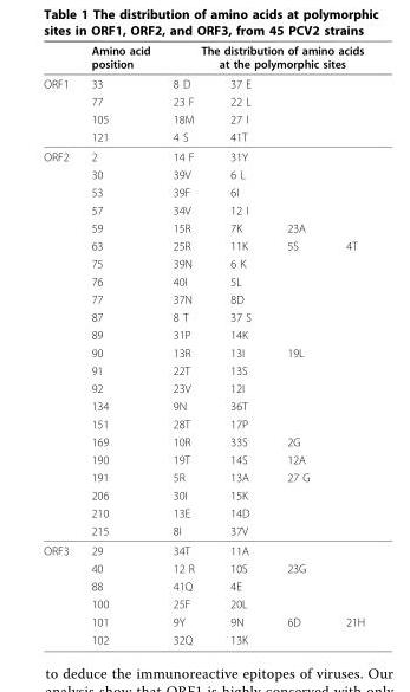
<table><thead><tr><td rowspan="2">ORF1</td><td rowspan="2">Amino acid position 33</td><td colspan="4">The distribution of amino acids at the polymorphic sites</td></tr><tr><td>8 D</td><td>37 E</td><td></td><td></td></tr></thead><tbody><tr><td></td><td>77</td><td>23 F</td><td>22 L</td><td></td><td></td></tr><tr><td></td><td>105</td><td>18M</td><td>27 I</td><td></td><td></td></tr><tr><td></td><td>121</td><td>4 S</td><td>41T</td><td></td><td></td></tr><tr><td rowspan="22">ORF2</td><td>2</td><td>14 F</td><td>31Y</td><td></td><td></td></tr><tr><td>30</td><td>39V</td><td>6 L</td><td></td><td></td></tr><tr><td>53</td><td>39F</td><td>6I</td><td></td><td></td></tr><tr><td>57</td><td>34V</td><td>12 I</td><td></td><td></td></tr><tr><td>59</td><td>15R</td><td>7K</td><td>23A</td><td></td></tr><tr><td>63</td><td>25R</td><td>11K</td><td>5S</td><td>4T</td></tr><tr><td>75</td><td>39N</td><td>6 K</td><td></td><td></td></tr><tr><td>76</td><td>40I</td><td>5L</td><td></td><td></td></tr><tr><td>77</td><td>37N</td><td>8D</td><td></td><td></td></tr><tr><td>87</td><td>8 T</td><td>37 S</td><td></td><td></td></tr><tr><td>89</td><td>31P</td><td>14K</td><td></td><td></td></tr><tr><td>90</td><td>13R</td><td>13I</td><td>19L</td><td></td></tr><tr><td>91</td><td>22T</td><td>13S</td><td></td><td></td></tr><tr><td>92</td><td>23V</td><td>12I</td><td></td><td></td></tr><tr><td>134</td><td>9N</td><td>36T</td><td></td><td></td></tr><tr><td>151</td><td>28T</td><td>17P</td><td></td><td></td></tr><tr><td>169</td><td>10R</td><td>33S</td><td>2G</td><td></td></tr><tr><td>190</td><td>19T</td><td>14S</td><td>12A</td><td></td></tr><tr><td>191</td><td>5R</td><td>13A</td><td>27 G</td><td></td></tr><tr><td>206</td><td>30I</td><td>15K</td><td></td><td></td></tr><tr><td>210</td><td>13E</td><td>14D</td><td></td><td></td></tr><tr><td>215</td><td>8I</td><td>37V</td><td></td><td></td></tr><tr><td rowspan="6">ORF3</td><td>29</td><td>34T</td><td>11A</td><td></td><td></td></tr><tr><td>40</td><td>12 R</td><td>10S</td><td>23G</td><td></td></tr><tr><td>88</td><td>41Q</td><td>4E</td><td></td><td></td></tr><tr><td>100</td><td>25F</td><td>20L</td><td></td><td></td></tr><tr><td>101</td><td>9Y</td><td>9N</td><td>6D</td><td>21H</td></tr><tr><td>102</td><td>32Q</td><td>13K</td><td></td><td></td></tr></tbody></table>